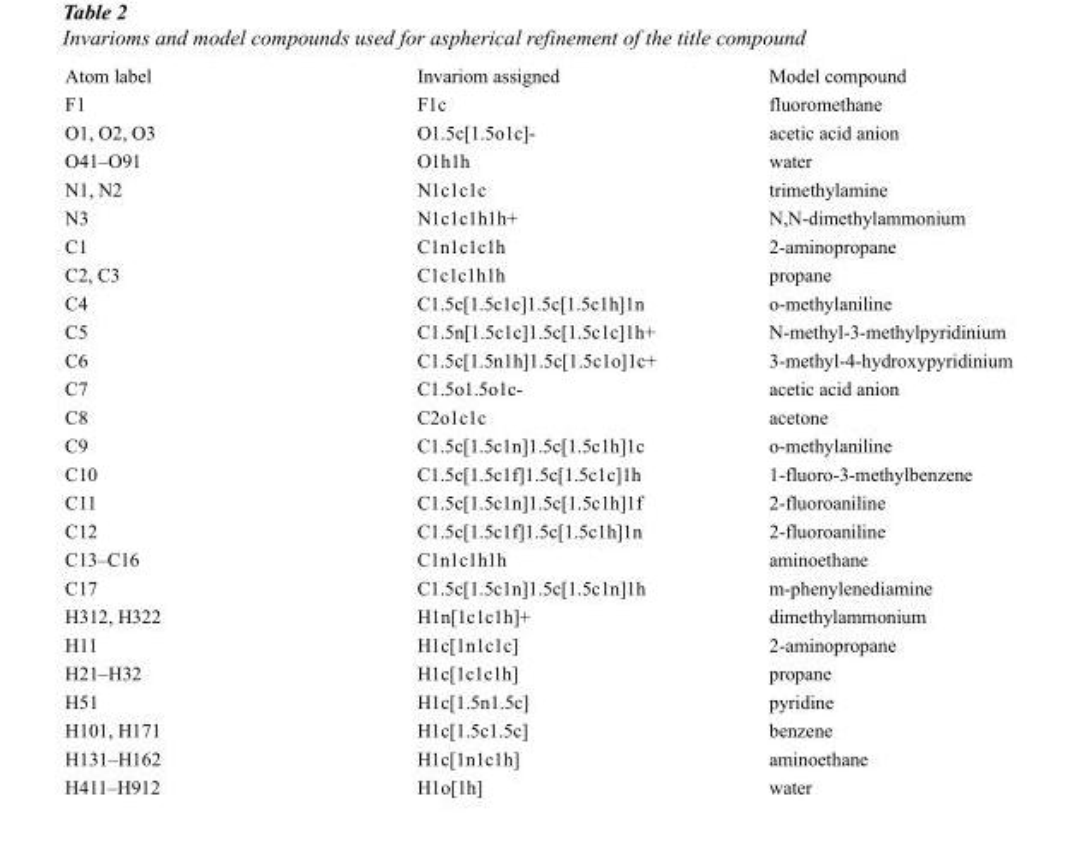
<table><tbody><tr><td>Atom label</td><td>Invariom assigned</td><td>Model compound</td></tr><tr><td>F1</td><td>F1c</td><td>fluoromethane</td></tr><tr><td>O1, O2, O3</td><td>O1.5c[1.5o1c]-</td><td>acetic acid anion</td></tr><tr><td>O41–O91</td><td>O1h1h</td><td>water</td></tr><tr><td>N1, N2</td><td>N1c1c1c</td><td>trimethylamine</td></tr><tr><td>N3</td><td>N1c1c1h1h+</td><td>N,N-dimethylammonium</td></tr><tr><td>C1</td><td>C1n1c1c1h</td><td>2-aminopropane</td></tr><tr><td>C2, C3</td><td>C1c1c1h1h</td><td>propane</td></tr><tr><td>C4</td><td>C1.5c[1.5c1c]1.5c[1.5c1h]1n</td><td>o-methylaniline</td></tr><tr><td>C5</td><td>C1.5n[1.5c1c]1.5c[1.5c1c]1h+</td><td>N-methyl-3-methylpyridinium</td></tr><tr><td>C6</td><td>C1.5c[1.5n1h]1.5c[1.5c1o]1c+</td><td>3-methyl-4-hydroxypyridinium</td></tr><tr><td>C7</td><td>C1.5o1.5o1c-</td><td>acetic acid anion</td></tr><tr><td>C8</td><td>C2o1c1c</td><td>acetone</td></tr><tr><td>C9</td><td>C1.5c[1.5c1n]1.5c[1.5c1h]1c</td><td>o-methylaniline</td></tr><tr><td>C10</td><td>C1.5c[1.5c1f]1.5c[1.5c1c]1h</td><td>1-fluoro-3-methylbenzene</td></tr><tr><td>C11</td><td>C1.5c[1.5c1n]1.5c[1.5c1h]1f</td><td>2-fluoroaniline</td></tr><tr><td>C12</td><td>C1.5c[1.5c1f]1.5c[1.5c1h]1n</td><td>2-fluoroaniline</td></tr><tr><td>C13–C16</td><td>C1n1c1h1h</td><td>aminoethane</td></tr><tr><td>C17</td><td>C1.5c[1.5c1n]1.5c[1.5c1n]1h</td><td>m-phenylenediamine</td></tr><tr><td>H312, H322</td><td>H1n[1c1c1h]+</td><td>dimethylammonium</td></tr><tr><td>H11</td><td>H1c[1n1c1c]</td><td>2-aminopropane</td></tr><tr><td>H21–H32</td><td>H1c[1c1c1h]</td><td>propane</td></tr><tr><td>H51</td><td>H1c[1.5n1.5c]</td><td>pyridine</td></tr><tr><td>H101, H171</td><td>H1c[1.5c1.5c]</td><td>benzene</td></tr><tr><td>H131–H162</td><td>H1c[1n1c1h]</td><td>aminoethane</td></tr><tr><td>H411–H912</td><td>H1o[1h]</td><td>water</td></tr></tbody></table>